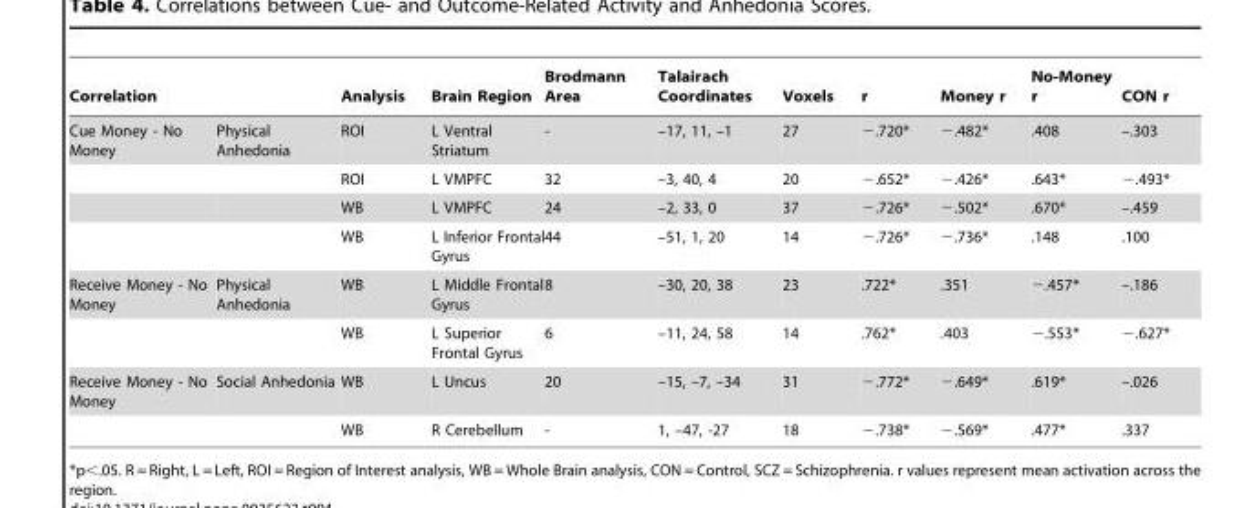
<table><thead><tr><td colspan="2">Correlation</td><td rowspan="2">Analysis ROI</td><td rowspan="2">Brain Region L Ventral Striatum</td><td rowspan="2">Brodmann Area -</td><td rowspan="2">Talairach Coordinates –17, 11, –1</td><td rowspan="2">Voxels 27</td><td rowspan="2">r −.720*</td><td rowspan="2">Money r −.482*</td><td rowspan="2">No-Money r .408</td><td rowspan="2">CON r –.303</td></tr><tr><td>Cue Money - No Money</td><td>Physical Anhedonia</td></tr></thead><tbody><tr><td></td><td></td><td>ROI</td><td>L VMPFC</td><td>32</td><td>–3, 40, 4</td><td>20</td><td>−.652*</td><td>−.426*</td><td>.643*</td><td>−.493*</td></tr><tr><td></td><td></td><td>WB</td><td>L VMPFC</td><td>24</td><td>–2, 33, 0</td><td>37</td><td>−.726*</td><td>−.502*</td><td>.670*</td><td>–.459</td></tr><tr><td></td><td></td><td>WB</td><td>L Inferior Frontal Gyrus</td><td>44</td><td>–51, 1, 20</td><td>14</td><td>−.726*</td><td>−.736*</td><td>.148</td><td>.100</td></tr><tr><td rowspan="2">Receive Money - No Money</td><td>Physical Anhedonia</td><td>WB</td><td>L Middle Frontal Gyrus</td><td>8</td><td>–30, 20, 38</td><td>23</td><td>.722*</td><td>.351</td><td>−.457*</td><td>–.186</td></tr><tr><td></td><td>WB</td><td>L Superior Frontal Gyrus</td><td>6</td><td>–11, 24, 58</td><td>14</td><td>.762*</td><td>.403</td><td>−.553*</td><td>−.627*</td></tr><tr><td rowspan="2">Receive Money - No Money</td><td>Social Anhedonia</td><td>WB</td><td>L Uncus</td><td>20</td><td>–15, –7, –34</td><td>31</td><td>−.772*</td><td>−.649*</td><td>.619*</td><td>–.026</td></tr><tr><td></td><td>WB</td><td>R Cerebellum</td><td>-</td><td>1, –47, -27</td><td>18</td><td>−.738*</td><td>−.569*</td><td>.477*</td><td>.337</td></tr></tbody></table>